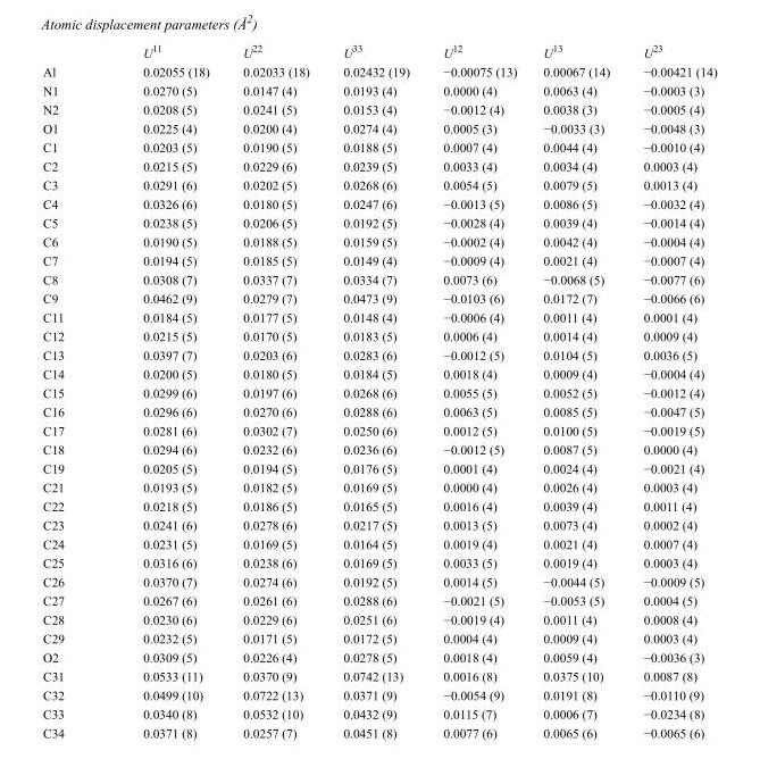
<table><thead><tr><td></td><td>U<sup>11</sup></td><td>U<sup>22</sup></td><td>U<sup>33</sup></td><td>U<sup>12</sup></td><td>U<sup>13</sup></td><td>U<sup>23</sup></td></tr></thead><tbody><tr><td>Al</td><td>0.02055 (18)</td><td>0.02033 (18)</td><td>0.02432 (19)</td><td>−0.00075 (13)</td><td>0.00067 (14)</td><td>−0.00421 (14)</td></tr><tr><td>N1</td><td>0.0270 (5)</td><td>0.0147 (4)</td><td>0.0193 (4)</td><td>0.0000 (4)</td><td>0.0063 (4)</td><td>−0.0003 (3)</td></tr><tr><td>N2</td><td>0.0208 (5)</td><td>0.0241 (5)</td><td>0.0153 (4)</td><td>−0.0012 (4)</td><td>0.0038 (3)</td><td>−0.0005 (4)</td></tr><tr><td>O1</td><td>0.0225 (4)</td><td>0.0200 (4)</td><td>0.0274 (4)</td><td>0.0005 (3)</td><td>−0.0033 (3)</td><td>−0.0048 (3)</td></tr><tr><td>C1</td><td>0.0203 (5)</td><td>0.0190 (5)</td><td>0.0188 (5)</td><td>0.0007 (4)</td><td>0.0044 (4)</td><td>−0.0010 (4)</td></tr><tr><td>C2</td><td>0.0215 (5)</td><td>0.0229 (6)</td><td>0.0239 (5)</td><td>0.0033 (4)</td><td>0.0034 (4)</td><td>0.0003 (4)</td></tr><tr><td>C3</td><td>0.0291 (6)</td><td>0.0202 (5)</td><td>0.0268 (6)</td><td>0.0054 (5)</td><td>0.0079 (5)</td><td>0.0013 (4)</td></tr><tr><td>C4</td><td>0.0326 (6)</td><td>0.0180 (5)</td><td>0.0247 (6)</td><td>−0.0013 (5)</td><td>0.0086 (5)</td><td>−0.0032 (4)</td></tr><tr><td>C5</td><td>0.0238 (5)</td><td>0.0206 (5)</td><td>0.0192 (5)</td><td>−0.0028 (4)</td><td>0.0039 (4)</td><td>−0.0014 (4)</td></tr><tr><td>C6</td><td>0.0190 (5)</td><td>0.0188 (5)</td><td>0.0159 (5)</td><td>−0.0002 (4)</td><td>0.0042 (4)</td><td>−0.0004 (4)</td></tr><tr><td>C7</td><td>0.0194 (5)</td><td>0.0185 (5)</td><td>0.0149 (4)</td><td>−0.0009 (4)</td><td>0.0021 (4)</td><td>−0.0007 (4)</td></tr><tr><td>C8</td><td>0.0308 (7)</td><td>0.0337 (7)</td><td>0.0334 (7)</td><td>0.0073 (6)</td><td>−0.0068 (5)</td><td>−0.0077 (6)</td></tr><tr><td>C9</td><td>0.0462 (9)</td><td>0.0279 (7)</td><td>0.0473 (9)</td><td>−0.0103 (6)</td><td>0.0172 (7)</td><td>−0.0066 (6)</td></tr><tr><td>C11</td><td>0.0184 (5)</td><td>0.0177 (5)</td><td>0.0148 (4)</td><td>−0.0006 (4)</td><td>0.0011 (4)</td><td>0.0001 (4)</td></tr><tr><td>C12</td><td>0.0215 (5)</td><td>0.0170 (5)</td><td>0.0183 (5)</td><td>0.0006 (4)</td><td>0.0014 (4)</td><td>0.0009 (4)</td></tr><tr><td>C13</td><td>0.0397 (7)</td><td>0.0203 (6)</td><td>0.0283 (6)</td><td>−0.0012 (5)</td><td>0.0104 (5)</td><td>0.0036 (5)</td></tr><tr><td>C14</td><td>0.0200 (5)</td><td>0.0180 (5)</td><td>0.0184 (5)</td><td>0.0018 (4)</td><td>0.0009 (4)</td><td>−0.0004 (4)</td></tr><tr><td>C15</td><td>0.0299 (6)</td><td>0.0197 (6)</td><td>0.0268 (6)</td><td>0.0055 (5)</td><td>0.0052 (5)</td><td>−0.0012 (4)</td></tr><tr><td>C16</td><td>0.0296 (6)</td><td>0.0270 (6)</td><td>0.0288 (6)</td><td>0.0063 (5)</td><td>0.0085 (5)</td><td>−0.0047 (5)</td></tr><tr><td>C17</td><td>0.0281 (6)</td><td>0.0302 (7)</td><td>0.0250 (6)</td><td>0.0012 (5)</td><td>0.0100 (5)</td><td>−0.0019 (5)</td></tr><tr><td>C18</td><td>0.0294 (6)</td><td>0.0232 (6)</td><td>0.0236 (6)</td><td>−0.0012 (5)</td><td>0.0087 (5)</td><td>0.0000 (4)</td></tr><tr><td>C19</td><td>0.0205 (5)</td><td>0.0194 (5)</td><td>0.0176 (5)</td><td>0.0001 (4)</td><td>0.0024 (4)</td><td>−0.0021 (4)</td></tr><tr><td>C21</td><td>0.0193 (5)</td><td>0.0182 (5)</td><td>0.0169 (5)</td><td>0.0000 (4)</td><td>0.0026 (4)</td><td>0.0003 (4)</td></tr><tr><td>C22</td><td>0.0218 (5)</td><td>0.0186 (5)</td><td>0.0165 (5)</td><td>0.0016 (4)</td><td>0.0039 (4)</td><td>0.0011 (4)</td></tr><tr><td>C23</td><td>0.0241 (6)</td><td>0.0278 (6)</td><td>0.0217 (5)</td><td>0.0013 (5)</td><td>0.0073 (4)</td><td>0.0002 (4)</td></tr><tr><td>C24</td><td>0.0231 (5)</td><td>0.0169 (5)</td><td>0.0164 (5)</td><td>0.0019 (4)</td><td>0.0021 (4)</td><td>0.0007 (4)</td></tr><tr><td>C25</td><td>0.0316 (6)</td><td>0.0238 (6)</td><td>0.0169 (5)</td><td>0.0033 (5)</td><td>0.0019 (4)</td><td>0.0003 (4)</td></tr><tr><td>C26</td><td>0.0370 (7)</td><td>0.0274 (6)</td><td>0.0192 (5)</td><td>0.0014 (5)</td><td>−0.0044 (5)</td><td>−0.0009 (5)</td></tr><tr><td>C27</td><td>0.0267 (6)</td><td>0.0261 (6)</td><td>0.0288 (6)</td><td>−0.0021 (5)</td><td>−0.0053 (5)</td><td>0.0004 (5)</td></tr><tr><td>C28</td><td>0.0230 (6)</td><td>0.0229 (6)</td><td>0.0251 (6)</td><td>−0.0019 (4)</td><td>0.0011 (4)</td><td>0.0008 (4)</td></tr><tr><td>C29</td><td>0.0232 (5)</td><td>0.0171 (5)</td><td>0.0172 (5)</td><td>0.0004 (4)</td><td>0.0009 (4)</td><td>0.0003 (4)</td></tr><tr><td>O2</td><td>0.0309 (5)</td><td>0.0226 (4)</td><td>0.0278 (5)</td><td>0.0018 (4)</td><td>0.0059 (4)</td><td>−0.0036 (3)</td></tr><tr><td>C31</td><td>0.0533 (11)</td><td>0.0370 (9)</td><td>0.0742 (13)</td><td>0.0016 (8)</td><td>0.0375 (10)</td><td>0.0087 (8)</td></tr><tr><td>C32</td><td>0.0499 (10)</td><td>0.0722 (13)</td><td>0.0371 (9)</td><td>−0.0054 (9)</td><td>0.0191 (8)</td><td>−0.0110 (9)</td></tr><tr><td>C33</td><td>0.0340 (8)</td><td>0.0532 (10)</td><td>0.0432 (9)</td><td>0.0115 (7)</td><td>0.0006 (7)</td><td>−0.0234 (8)</td></tr><tr><td>C34</td><td>0.0371 (8)</td><td>0.0257 (7)</td><td>0.0451 (8)</td><td>0.0077 (6)</td><td>0.0065 (6)</td><td>−0.0065 (6)</td></tr></tbody></table>